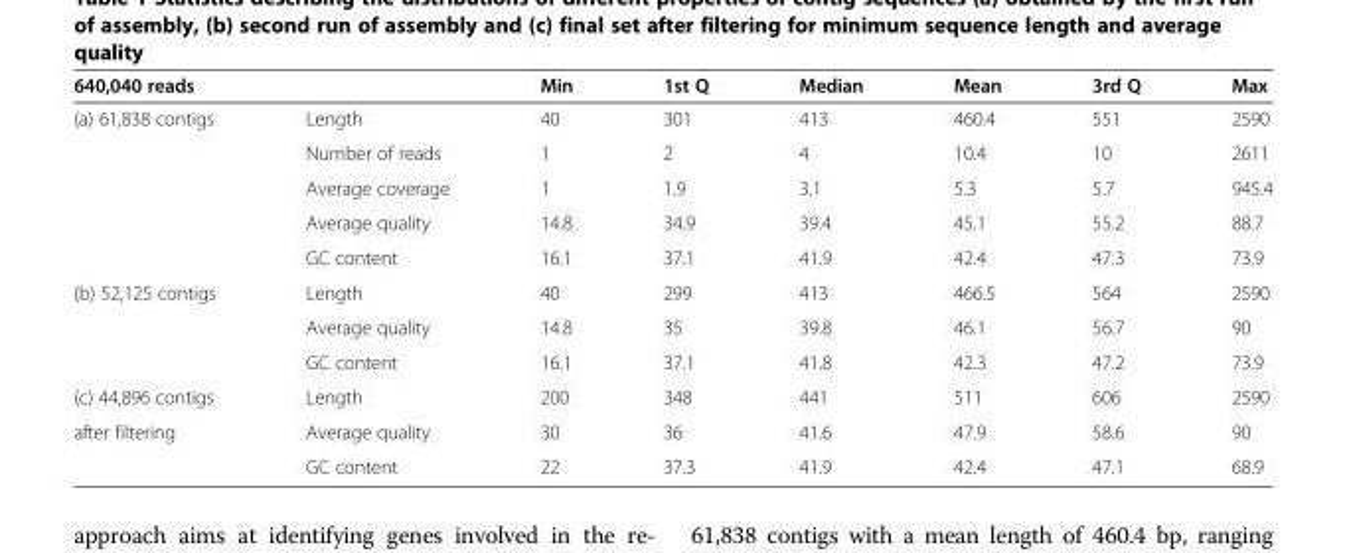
<table><thead><tr><td>640,040 reads</td><td></td><td>Min</td><td>1st Q</td><td>Median</td><td>Mean</td><td>3rd Q</td><td>Max</td></tr></thead><tbody><tr><td rowspan="5">(a) 61,838 contigs</td><td>Length</td><td>40</td><td>301</td><td>413</td><td>460.4</td><td>551</td><td>2590</td></tr><tr><td>Number of reads</td><td>1</td><td>2</td><td>4</td><td>10.4</td><td>10</td><td>2611</td></tr><tr><td>Average coverage</td><td>1</td><td>1.9</td><td>3.1</td><td>5.3</td><td>5.7</td><td>945.4</td></tr><tr><td>Average quality</td><td>14.8</td><td>34.9</td><td>39.4</td><td>45.1</td><td>55.2</td><td>88.7</td></tr><tr><td>GC content</td><td>16.1</td><td>37.1</td><td>41.9</td><td>42.4</td><td>47.3</td><td>73.9</td></tr><tr><td rowspan="3">(b) 52,125 contigs</td><td>Length</td><td>40</td><td>299</td><td>413</td><td>466.5</td><td>564</td><td>2590</td></tr><tr><td>Average quality</td><td>14.8</td><td>35</td><td>39.8</td><td>46.1</td><td>56.7</td><td>90</td></tr><tr><td>GC content</td><td>16.1</td><td>37.1</td><td>41.8</td><td>42.3</td><td>47.2</td><td>73.9</td></tr><tr><td>(c) 44,896 contigs</td><td>Length</td><td>200</td><td>348</td><td>441</td><td>511</td><td>606</td><td>2590</td></tr><tr><td rowspan="2">after filtering</td><td>Average quality</td><td>30</td><td>36</td><td>41.6</td><td>47.9</td><td>58.6</td><td>90</td></tr><tr><td>GC content</td><td>22</td><td>37.3</td><td>41.9</td><td>42.4</td><td>47.1</td><td>68.9</td></tr></tbody></table>